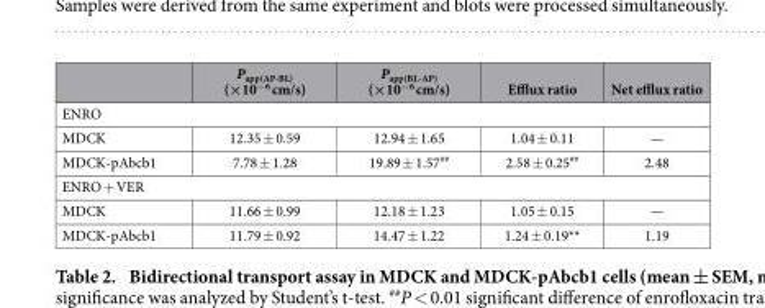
<table><thead><tr><td></td><td>P<sub>app(AP-BL)</sub> (×10<sup>−6</sup> cm/s)</td><td>P<sub>app(BL-AP)</sub> (×10<sup>−6</sup> cm/s)</td><td>Efflux ratio</td><td>Net efflux ratio</td></tr></thead><tbody><tr><td colspan="5">ENRO</td></tr><tr><td>MDCK</td><td>12.35 ± 0.59</td><td>12.94 ± 1.65</td><td>1.04 ± 0.11</td><td>—</td></tr><tr><td>MDCK-pAbcb1</td><td>7.78 ± 1.28</td><td>19.89 ± 1.57<sup>##</sup></td><td>2.58 ± 0.25<sup>##</sup></td><td>2.48</td></tr><tr><td colspan="5">ENRO + VER</td></tr><tr><td>MDCK</td><td>11.66 ± 0.99</td><td>12.18 ± 1.23</td><td>1.05 ± 0.15</td><td>—</td></tr><tr><td>MDCK-pAbcb1</td><td>11.79 ± 0.92</td><td>14.47 ± 1.22</td><td>1.24 ± 0.19**</td><td>1.19</td></tr></tbody></table>